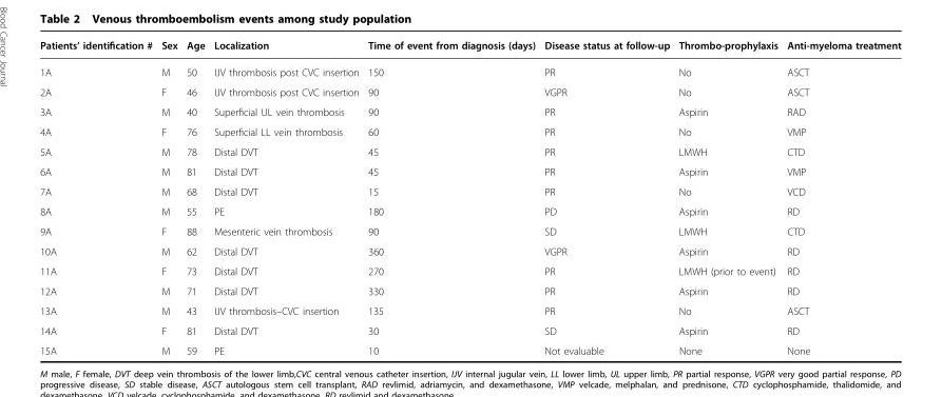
<table><thead><tr><td>Patients’ identification #</td><td>Sex</td><td>Age</td><td>Localization</td><td>Time of event from diagnosis (days)</td><td>Disease status at follow-up</td><td>Thrombo-prophylaxis</td><td>Anti-myeloma treatment</td></tr></thead><tbody><tr><td>1A</td><td>Μ</td><td>50</td><td>IJV thrombosis post CVC insertion</td><td>150</td><td>PR</td><td>No</td><td>ASCT</td></tr><tr><td>2A</td><td>F</td><td>46</td><td>IJV thrombosis post CVC insertion</td><td>90</td><td>VGPR</td><td>No</td><td>ASCT</td></tr><tr><td>3A</td><td>M</td><td>40</td><td>Superficial UL vein thrombosis</td><td>90</td><td>PR</td><td>Aspirin</td><td>RAD</td></tr><tr><td>4A</td><td>F</td><td>76</td><td>Superficial LL vein thrombosis</td><td>60</td><td>PR</td><td>No</td><td>VMP</td></tr><tr><td>5A</td><td>M</td><td>78</td><td>Distal DVT</td><td>45</td><td>PR</td><td>LMWH</td><td>CTD</td></tr><tr><td>6A</td><td>M</td><td>81</td><td>Distal DVT</td><td>45</td><td>PR</td><td>Aspirin</td><td>VMP</td></tr><tr><td>7A</td><td>M</td><td>68</td><td>Distal DVT</td><td>15</td><td>PR</td><td>No</td><td>VCD</td></tr><tr><td>8A</td><td>M</td><td>55</td><td>PE</td><td>180</td><td>PD</td><td>Aspirin</td><td>RD</td></tr><tr><td>9A</td><td>F</td><td>88</td><td>Mesenteric vein thrombosis</td><td>90</td><td>SD</td><td>LMWH</td><td>CTD</td></tr><tr><td>10A</td><td>M</td><td>62</td><td>Distal DVT</td><td>360</td><td>VGPR</td><td>Aspirin</td><td>RD</td></tr><tr><td>11A</td><td>F</td><td>73</td><td>Distal DVT</td><td>270</td><td>PR</td><td>LMWH (prior to event)</td><td>RD</td></tr><tr><td>12A</td><td>M</td><td>71</td><td>Distal DVT</td><td>330</td><td>PR</td><td>Aspirin</td><td>RD</td></tr><tr><td>13A</td><td>M</td><td>43</td><td>IJV thrombosis–CVC insertion</td><td>135</td><td>PR</td><td>No</td><td>ASCT</td></tr><tr><td>14A</td><td>F</td><td>81</td><td>Distal DVT</td><td>30</td><td>SD</td><td>Aspirin</td><td>RD</td></tr><tr><td>15A</td><td>M</td><td>59</td><td>PE</td><td>10</td><td>Not evaluable</td><td>None</td><td>None</td></tr></tbody></table>